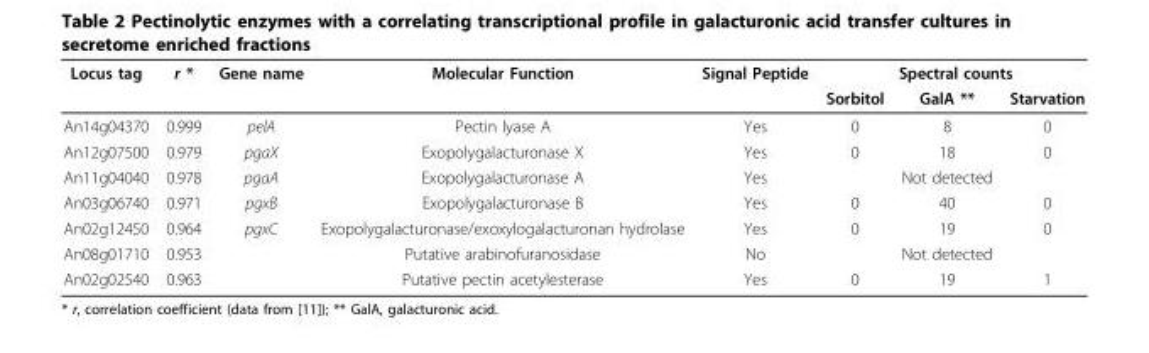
<table><thead><tr><td rowspan="2">Locus tag</td><td rowspan="2">r *</td><td rowspan="2">Gene name</td><td rowspan="2">Molecular Function</td><td rowspan="2">Signal Peptide</td><td colspan="3">Spectral counts</td></tr><tr><td>Sorbitol</td><td>GalA **</td><td>Starvation</td></tr></thead><tbody><tr><td>An14g04370</td><td>0.999</td><td>pelA</td><td>Pectin lyase A</td><td>Yes</td><td>0</td><td>8</td><td>0</td></tr><tr><td>An12g07500</td><td>0.979</td><td>pgaX</td><td>Exopolygalacturonase X</td><td>Yes</td><td>0</td><td>18</td><td>0</td></tr><tr><td>An11g04040</td><td>0.978</td><td>pgaA</td><td>Exopolygalacturonase A</td><td>Yes</td><td></td><td>Not detected</td><td></td></tr><tr><td>An03g06740</td><td>0.971</td><td>pgxB</td><td>Exopolygalacturonase B</td><td>Yes</td><td>0</td><td>40</td><td>0</td></tr><tr><td>An02g12450</td><td>0.964</td><td>pgxC</td><td>Exopolygalacturonase/exoxylogalacturonan hydrolase</td><td>Yes</td><td>0</td><td>19</td><td>0</td></tr><tr><td>An08g01710</td><td>0.953</td><td></td><td>Putative arabinofuranosidase</td><td>No</td><td></td><td>Not detected</td><td></td></tr><tr><td>An02g02540</td><td>0.963</td><td></td><td>Putative pectin acetylesterase</td><td>Yes</td><td>0</td><td>19</td><td>1</td></tr></tbody></table>